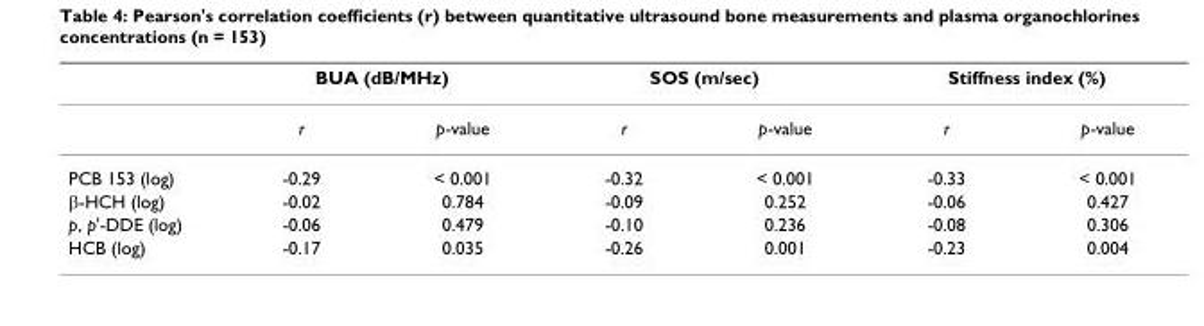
<table><thead><tr><td rowspan="2"></td><td colspan="2">BUA (dB/MHz)</td><td colspan="2">SOS (m/sec)</td><td colspan="2">Stiffness index (%)</td></tr><tr><td>r</td><td>p-value</td><td>r</td><td>p-value</td><td>r</td><td>p-value</td></tr></thead><tbody><tr><td>PCB 153 (log)</td><td>-0.29</td><td>&lt; 0.001</td><td>-0.32</td><td>&lt; 0.001</td><td>-0.33</td><td>&lt; 0.001</td></tr><tr><td>β-HCH (log)</td><td>-0.02</td><td>0.784</td><td>-0.09</td><td>0.252</td><td>-0.06</td><td>0.427</td></tr><tr><td>p, p&#x27;-DDE (log)</td><td>-0.06</td><td>0.479</td><td>-0.10</td><td>0.236</td><td>-0.08</td><td>0.306</td></tr><tr><td>HCB (log)</td><td>-0.17</td><td>0.035</td><td>-0.26</td><td>0.001</td><td>-0.23</td><td>0.004</td></tr></tbody></table>